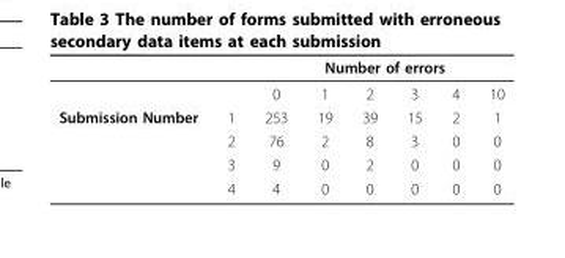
<table><thead><tr><td rowspan="2"></td><td rowspan="2"></td><td colspan="6">Number of errors</td></tr><tr><td>0</td><td>1</td><td>2</td><td>3</td><td>4</td><td>10</td></tr></thead><tbody><tr><td rowspan="4">Submission Number</td><td>1</td><td>253</td><td>19</td><td>39</td><td>15</td><td>2</td><td>1</td></tr><tr><td>2</td><td>76</td><td>2</td><td>8</td><td>3</td><td>0</td><td>0</td></tr><tr><td>3</td><td>9</td><td>0</td><td>2</td><td>0</td><td>0</td><td>0</td></tr><tr><td>4</td><td>4</td><td>0</td><td>0</td><td>0</td><td>0</td><td>0</td></tr></tbody></table>